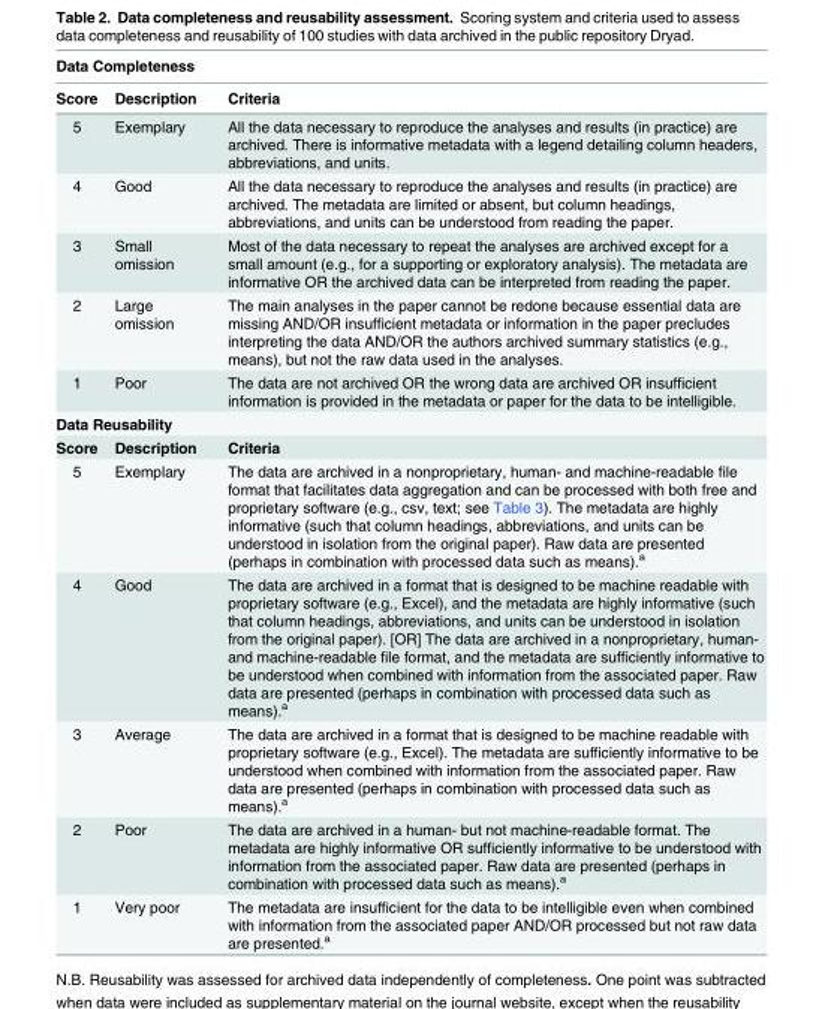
<table><thead><tr><td colspan="3">Data Completeness</td></tr><tr><td>Score</td><td>Description</td><td>Criteria</td></tr></thead><tbody><tr><td>5</td><td>Exemplary</td><td>All the data necessary to reproduce the analyses and results (in practice) are archived. There is informative metadata with a legend detailing column headers, abbreviations, and units.</td></tr><tr><td>4</td><td>Good</td><td>All the data necessary to reproduce the analyses and results (in practice) are archived. The metadata are limited or absent, but column headings, abbreviations, and units can be understood from reading the paper.</td></tr><tr><td>3</td><td>Small omission</td><td>Most of the data necessary to repeat the analyses are archived except for a small amount (e.g., for a supporting or exploratory analysis). The metadata are informative OR the archived data can be interpreted from reading the paper.</td></tr><tr><td>2</td><td>Large omission</td><td>The main analyses in the paper cannot be redone because essential data are missing AND/OR insufficient metadata or information in the paper precludes interpreting the data AND/OR the authors archived summary statistics (e.g., means), but not the raw data used in the analyses.</td></tr><tr><td>1</td><td>Poor</td><td>The data are not archived OR the wrong data are archived OR insufficient information is provided in the metadata or paper for the data to be intelligible.</td></tr><tr><td colspan="3">Data Reusability</td></tr><tr><td>Score</td><td>Description</td><td>Criteria</td></tr><tr><td>5</td><td>Exemplary</td><td>The data are archived in a nonproprietary, human- and machine-readable file format that facilitates data aggregation and can be processed with both free and proprietary software (e.g., csv, text; see Table 3). The metadata are highly informative (such that column headings, abbreviations, and units can be understood in isolation from the original paper). Raw data are presented (perhaps in combination with processed data such as means).<sup>a</sup></td></tr><tr><td>4</td><td>Good</td><td>The data are archived in a format that is designed to be machine readable with proprietary software (e.g., Excel), and the metadata are highly informative (such that column headings, abbreviations, and units can be understood in isolation from the original paper). [OR] The data are archived in a nonproprietary, human- and machine-readable file format, and the metadata are sufficiently informative to be understood when combined with information from the associated paper. Raw data are presented (perhaps in combination with processed data such as means).<sup>a</sup></td></tr><tr><td>3</td><td>Average</td><td>The data are archived in a format that is designed to be machine readable with proprietary software (e.g., Excel). The metadata are sufficiently informative to be understood when combined with information from the associated paper. Raw data are presented (perhaps in combination with processed data such as means).<sup>a</sup></td></tr><tr><td>2</td><td>Poor</td><td>The data are archived in a human- but not machine-readable format. The metadata are highly informative OR sufficiently informative to be understood with information from the associated paper. Raw data are presented (perhaps in combination with processed data such as means).<sup>a</sup></td></tr><tr><td>1</td><td>Very poor</td><td>The metadata are insufficient for the data to be intelligible even when combined with information from the associated paper AND/OR processed but not raw data are presented.<sup>a</sup></td></tr></tbody></table>